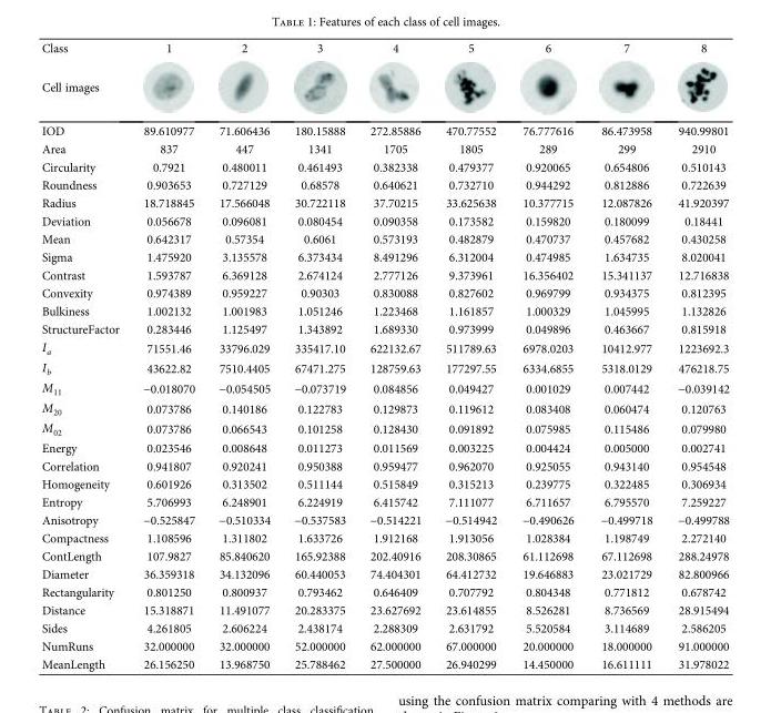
<table><thead><tr><td rowspan="2">Class Cell images</td><td rowspan="2">1</td><td rowspan="2">2</td><td rowspan="2">3</td><td rowspan="2">4</td><td rowspan="2">5</td><td rowspan="2">6</td><td rowspan="2">7</td><td rowspan="2">8</td></tr><tr></tr></thead><tbody><tr><td>IOD</td><td>89.610977</td><td>71.606436</td><td>180.15888</td><td>272.85886</td><td>470.77552</td><td>76.777616</td><td>86.473958</td><td>940.99801</td></tr><tr><td>Area</td><td>837</td><td>447</td><td>1341</td><td>1705</td><td>1805</td><td>289</td><td>299</td><td>2910</td></tr><tr><td>Circularity</td><td>0.7921</td><td>0.480011</td><td>0.461493</td><td>0.382338</td><td>0.479377</td><td>0.920065</td><td>0.654806</td><td>0.510143</td></tr><tr><td>Roundness</td><td>0.903653</td><td>0.727129</td><td>0.68578</td><td>0.640621</td><td>0.732710</td><td>0.944292</td><td>0.812886</td><td>0.722639</td></tr><tr><td>Radius</td><td>18.718845</td><td>17.566048</td><td>30.722118</td><td>37.70215</td><td>33.625638</td><td>10.377715</td><td>12.087826</td><td>41.920397</td></tr><tr><td>Deviation</td><td>0.056678</td><td>0.096081</td><td>0.080454</td><td>0.090358</td><td>0.173582</td><td>0.159820</td><td>0.180099</td><td>0.18441</td></tr><tr><td>Mean</td><td>0.642317</td><td>0.57354</td><td>0.6061</td><td>0.573193</td><td>0.482879</td><td>0.470737</td><td>0.457682</td><td>0.430258</td></tr><tr><td>Sigma</td><td>1.475920</td><td>3.135578</td><td>6.373434</td><td>8.491296</td><td>6.312004</td><td>0.474985</td><td>1.634735</td><td>8.020041</td></tr><tr><td>Contrast</td><td>1.593787</td><td>6.369128</td><td>2.674124</td><td>2.777126</td><td>9.373961</td><td>16.356402</td><td>15.341137</td><td>12.716838</td></tr><tr><td>Convexity</td><td>0.974389</td><td>0.959227</td><td>0.90303</td><td>0.830088</td><td>0.827602</td><td>0.969799</td><td>0.934375</td><td>0.812395</td></tr><tr><td>Bulkiness</td><td>1.002132</td><td>1.001983</td><td>1.051246</td><td>1.223468</td><td>1.161857</td><td>1.000329</td><td>1.045995</td><td>1.132826</td></tr><tr><td>StructureFactor</td><td>0.283446</td><td>1.125497</td><td>1.343892</td><td>1.689330</td><td>0.973999</td><td>0.049896</td><td>0.463667</td><td>0.815918</td></tr><tr><td>I<sub>a</sub></td><td>71551.46</td><td>33796.029</td><td>335417.10</td><td>622132.67</td><td>511789.63</td><td>6978.0203</td><td>10412.977</td><td>1223692.3</td></tr><tr><td>I<sub>b</sub></td><td>43622.82</td><td>7510.4405</td><td>67471.275</td><td>128759.63</td><td>177297.55</td><td>6334.6855</td><td>5318.0129</td><td>476218.75</td></tr><tr><td>M<sub>11</sub></td><td>−0.018070</td><td>−0.054505</td><td>−0.073719</td><td>0.084856</td><td>0.049427</td><td>0.001029</td><td>0.007442</td><td>−0.039142</td></tr><tr><td>M<sub>20</sub></td><td>0.073786</td><td>0.140186</td><td>0.122783</td><td>0.129873</td><td>0.119612</td><td>0.083408</td><td>0.060474</td><td>0.120763</td></tr><tr><td>M<sub>02</sub></td><td>0.073786</td><td>0.066543</td><td>0.101258</td><td>0.128430</td><td>0.091892</td><td>0.075985</td><td>0.115486</td><td>0.079980</td></tr><tr><td>Energy</td><td>0.023546</td><td>0.008648</td><td>0.011273</td><td>0.011569</td><td>0.003225</td><td>0.004424</td><td>0.005000</td><td>0.002741</td></tr><tr><td>Correlation</td><td>0.941807</td><td>0.920241</td><td>0.950388</td><td>0.959477</td><td>0.962070</td><td>0.925055</td><td>0.943140</td><td>0.954548</td></tr><tr><td>Homogeneity</td><td>0.601926</td><td>0.313502</td><td>0.511144</td><td>0.515849</td><td>0.315213</td><td>0.239775</td><td>0.322485</td><td>0.306934</td></tr><tr><td>Entropy</td><td>5.706993</td><td>6.248901</td><td>6.224919</td><td>6.415742</td><td>7.111077</td><td>6.711657</td><td>6.795570</td><td>7.259227</td></tr><tr><td>Anisotropy</td><td>−0.525847</td><td>−0.510334</td><td>−0.537583</td><td>−0.514221</td><td>−0.514942</td><td>−0.490626</td><td>−0.499718</td><td>−0.499788</td></tr><tr><td>Compactness</td><td>1.108596</td><td>1.311802</td><td>1.633726</td><td>1.912168</td><td>1.913056</td><td>1.028384</td><td>1.198749</td><td>2.272140</td></tr><tr><td>ContLength</td><td>107.9827</td><td>85.840620</td><td>165.92388</td><td>202.40916</td><td>208.30865</td><td>61.112698</td><td>67.112698</td><td>288.24978</td></tr><tr><td>Diameter</td><td>36.359318</td><td>34.132096</td><td>60.440053</td><td>74.404301</td><td>64.412732</td><td>19.646883</td><td>23.021729</td><td>82.800966</td></tr><tr><td>Rectangularity</td><td>0.801250</td><td>0.800937</td><td>0.793462</td><td>0.646409</td><td>0.707792</td><td>0.804348</td><td>0.771812</td><td>0.678742</td></tr><tr><td>Distance</td><td>15.318871</td><td>11.491077</td><td>20.283375</td><td>23.627692</td><td>23.614855</td><td>8.526281</td><td>8.736569</td><td>28.915494</td></tr><tr><td>Sides</td><td>4.261805</td><td>2.606224</td><td>2.438174</td><td>2.288309</td><td>2.631792</td><td>5.520584</td><td>3.114689</td><td>2.586205</td></tr><tr><td>NumRuns</td><td>32.000000</td><td>32.000000</td><td>52.000000</td><td>62.000000</td><td>67.000000</td><td>20.000000</td><td>18.000000</td><td>91.000000</td></tr><tr><td>MeanLength</td><td>26.156250</td><td>13.968750</td><td>25.788462</td><td>27.500000</td><td>26.940299</td><td>14.450000</td><td>16.611111</td><td>31.978022</td></tr></tbody></table>